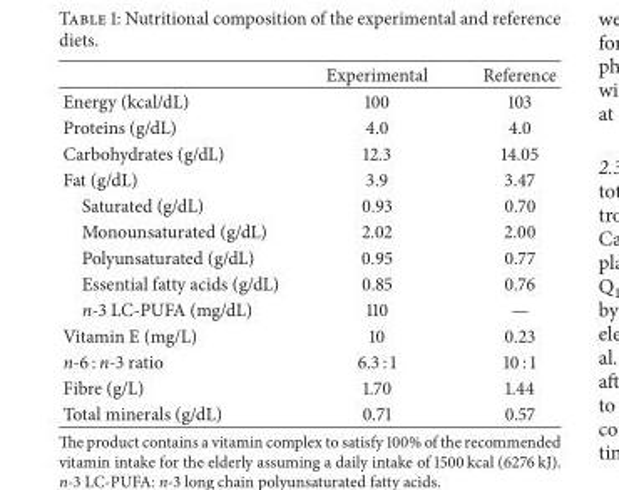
<table><thead><tr><td></td><td>Experimental</td><td>Reference</td></tr></thead><tbody><tr><td>Energy (kcal/dL)</td><td>100</td><td>103</td></tr><tr><td>Proteins (g/dL)</td><td>4.0</td><td>4.0</td></tr><tr><td>Carbohydrates (g/dL)</td><td>12.3</td><td>14.05</td></tr><tr><td>Fat (g/dL)</td><td>3.9</td><td>3.47</td></tr><tr><td>Saturated (g/dL)</td><td>0.93</td><td>0.70</td></tr><tr><td>Monounsaturated (g/dL)</td><td>2.02</td><td>2.00</td></tr><tr><td>Polyunsaturated (g/dL)</td><td>0.95</td><td>0.77</td></tr><tr><td>Essential fatty acids (g/dL)</td><td>0.85</td><td>0.76</td></tr><tr><td>n-3 LC-PUFA (mg/dL)</td><td>110</td><td>—</td></tr><tr><td>Vitamin E (mg/L)</td><td>10</td><td>0.23</td></tr><tr><td>n-6 : n-3 ratio</td><td>6.3 : 1</td><td>10 : 1</td></tr><tr><td>Fibre (g/L)</td><td>1.70</td><td>1.44</td></tr><tr><td>Total minerals (g/dL)</td><td>0.71</td><td>0.57</td></tr></tbody></table>